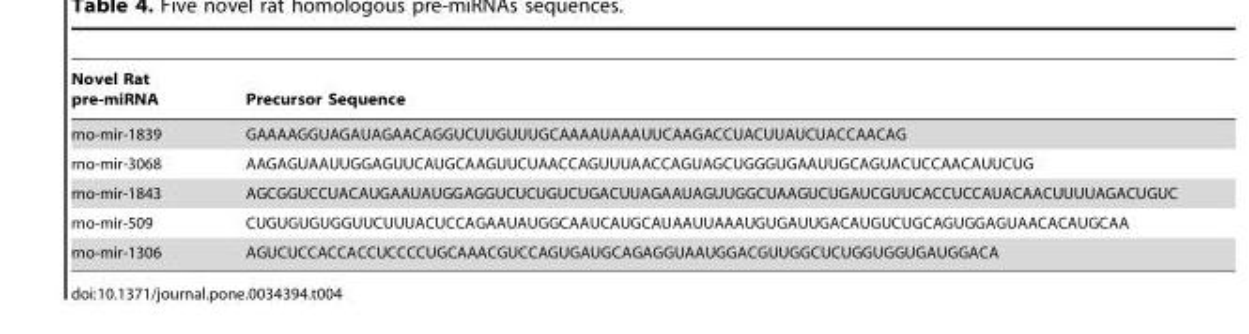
<table><thead><tr><td>Novel Rat pre-miRNA</td><td>Precursor Sequence</td></tr></thead><tbody><tr><td>rno-mir-1839</td><td>GAAAAGGUAGAUAGAACAGGUCUUGUUUGCAAAAUAAAUUCAAGACCUACUUAUCUACCAACAG</td></tr><tr><td>rno-mir-3068</td><td>AAGAGUAAUUGGAGUUCAUGCAAGUUCUAACCAGUUUAACCAGUAGCUGGGUGAAUUGCAGUACUCCAACAUUCUG</td></tr><tr><td>rno-mir-1843</td><td>AGCGGUCCUACAUGAAUAUGGAGGUCUCUGUCUGACUUAGAAUAGUUGGCUAAGUCUGAUCGUUCACCUCCAUACAACUUUUAGACUGUC</td></tr><tr><td>rno-mir-509</td><td>CUGUGUGUGGUUCUUUACUCCAGAAUAUGGCAAUCAUGCAUAAUUAAAUGUGAUUGACAUGUCUGCAGUGGAGUAACACAUGCAA</td></tr><tr><td>rno-mir-1306</td><td>AGUCUCCACCACCUCCCCUGCAAACGUCCAGUGAUGCAGAGGUAAUGGACGUUGGCUCUGGUGGUGAUGGACA</td></tr></tbody></table>